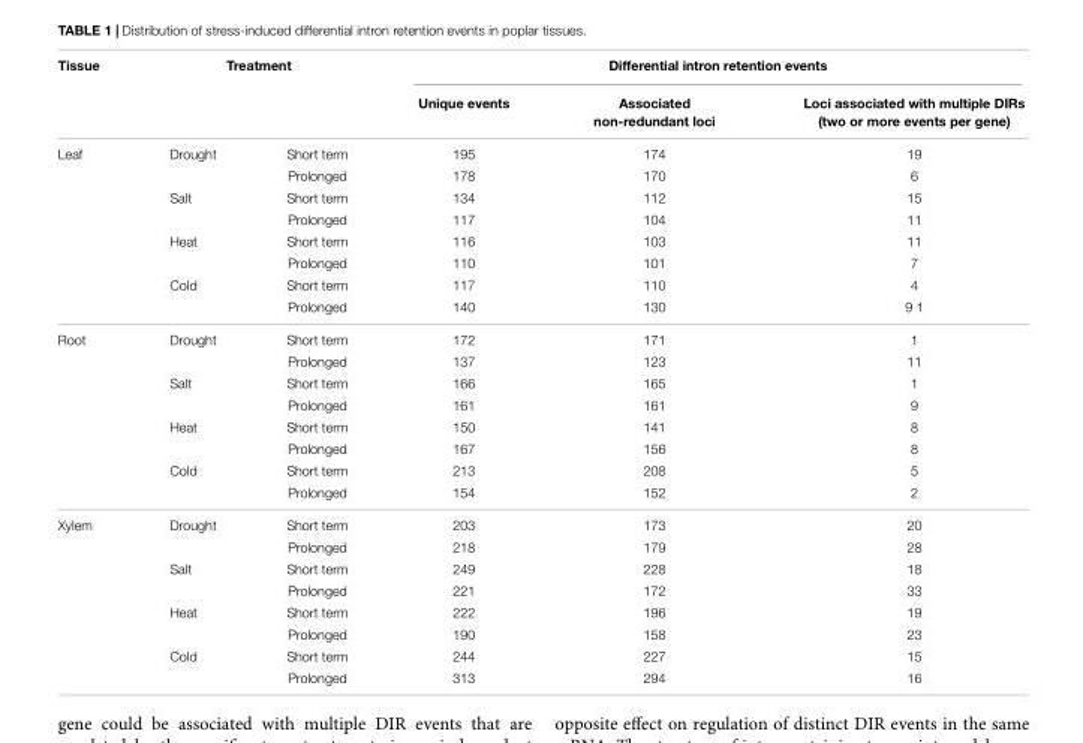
<table><thead><tr><td rowspan="2">Tissue</td><td colspan="2">Treatment</td><td colspan="3">Differential intron retention events</td></tr><tr><td></td><td></td><td>Unique events</td><td>Associated non-redundant loci</td><td>Loci associated with multiple DIRs (two or more events per gene)</td></tr></thead><tbody><tr><td rowspan="8">Leaf</td><td>Drought</td><td>Short term</td><td>195</td><td>174</td><td>19</td></tr><tr><td></td><td>Prolonged</td><td>178</td><td>170</td><td>6</td></tr><tr><td>Salt</td><td>Short term</td><td>134</td><td>112</td><td>15</td></tr><tr><td></td><td>Prolonged</td><td>117</td><td>104</td><td>11</td></tr><tr><td>Heat</td><td>Short term</td><td>116</td><td>103</td><td>11</td></tr><tr><td></td><td>Prolonged</td><td>110</td><td>101</td><td>7</td></tr><tr><td>Cold</td><td>Short term</td><td>117</td><td>110</td><td>4</td></tr><tr><td></td><td>Prolonged</td><td>140</td><td>130</td><td>9 1</td></tr><tr><td rowspan="8">Root</td><td>Drought</td><td>Short term</td><td>172</td><td>171</td><td>1</td></tr><tr><td></td><td>Prolonged</td><td>137</td><td>123</td><td>11</td></tr><tr><td>Salt</td><td>Short term</td><td>166</td><td>165</td><td>1</td></tr><tr><td></td><td>Prolonged</td><td>161</td><td>161</td><td>9</td></tr><tr><td>Heat</td><td>Short term</td><td>150</td><td>141</td><td>8</td></tr><tr><td></td><td>Prolonged</td><td>167</td><td>156</td><td>8</td></tr><tr><td>Cold</td><td>Short term</td><td>213</td><td>208</td><td>5</td></tr><tr><td></td><td>Prolonged</td><td>154</td><td>152</td><td>2</td></tr><tr><td rowspan="8">Xylem</td><td>Drought</td><td>Short term</td><td>203</td><td>173</td><td>20</td></tr><tr><td></td><td>Prolonged</td><td>218</td><td>179</td><td>28</td></tr><tr><td>Salt</td><td>Short term</td><td>249</td><td>228</td><td>18</td></tr><tr><td></td><td>Prolonged</td><td>221</td><td>172</td><td>33</td></tr><tr><td>Heat</td><td>Short term</td><td>222</td><td>196</td><td>19</td></tr><tr><td></td><td>Prolonged</td><td>190</td><td>158</td><td>23</td></tr><tr><td>Cold</td><td>Short term</td><td>244</td><td>227</td><td>15</td></tr><tr><td></td><td>Prolonged</td><td>313</td><td>294</td><td>16</td></tr></tbody></table>